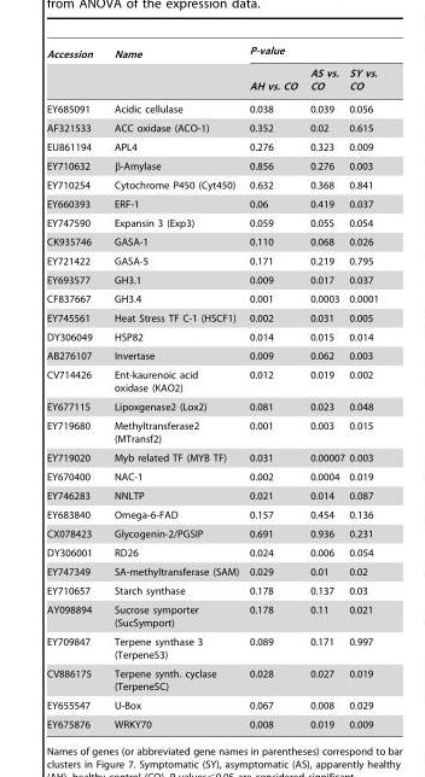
<table><thead><tr><td rowspan="2">Accession</td><td rowspan="2">Name</td><td colspan="3">P-value</td></tr><tr><td>AH vs. CO</td><td>AS vs. CO</td><td>SY vs. CO</td></tr></thead><tbody><tr><td>EY685091</td><td>Acidic cellulase</td><td>0.038</td><td>0.039</td><td>0.056</td></tr><tr><td>AF321533</td><td>ACC oxidase (ACO-1)</td><td>0.352</td><td>0.02</td><td>0.615</td></tr><tr><td>EU861194</td><td>APL4</td><td>0.276</td><td>0.323</td><td>0.009</td></tr><tr><td>EY710632</td><td>β-Amylase</td><td>0.856</td><td>0.276</td><td>0.003</td></tr><tr><td>EY710254</td><td>Cytochrome P450 (Cyt450)</td><td>0.632</td><td>0.368</td><td>0.841</td></tr><tr><td>EY660393</td><td>ERF-1</td><td>0.06</td><td>0.419</td><td>0.037</td></tr><tr><td>EY747590</td><td>Expansin 3 (Exp3)</td><td>0.059</td><td>0.055</td><td>0.054</td></tr><tr><td>CK935746</td><td>GASA-1</td><td>0.110</td><td>0.068</td><td>0.026</td></tr><tr><td>EY721422</td><td>GASA-5</td><td>0.171</td><td>0.219</td><td>0.795</td></tr><tr><td>EY693577</td><td>GH3.1</td><td>0.009</td><td>0.017</td><td>0.037</td></tr><tr><td>CF837667</td><td>GH3.4</td><td>0.001</td><td>0.0003</td><td>0.0001</td></tr><tr><td>EY745561</td><td>Heat Stress TF C-1 (HSCF1)</td><td>0.002</td><td>0.031</td><td>0.005</td></tr><tr><td>DY306049</td><td>HSP82</td><td>0.014</td><td>0.015</td><td>0.014</td></tr><tr><td>AB276107</td><td>Invertase</td><td>0.009</td><td>0.062</td><td>0.003</td></tr><tr><td>CV714426</td><td>Ent-kaurenoic acid oxidase (KAO2)</td><td>0.012</td><td>0.019</td><td>0.002</td></tr><tr><td>EY677115</td><td>Lipoxgenase2 (Lox2)</td><td>0.081</td><td>0.023</td><td>0.048</td></tr><tr><td>EY719680</td><td>Methyltransferase2 (MTransf2)</td><td>0.001</td><td>0.003</td><td>0.015</td></tr><tr><td>EY719020</td><td>Myb related TF (MYB TF)</td><td>0.031</td><td>0.00007</td><td>0.003</td></tr><tr><td>EY670400</td><td>NAC-1</td><td>0.002</td><td>0.0004</td><td>0.019</td></tr><tr><td>EY746283</td><td>NNLTP</td><td>0.021</td><td>0.014</td><td>0.087</td></tr><tr><td>EY683840</td><td>Omega-6-FAD</td><td>0.157</td><td>0.454</td><td>0.136</td></tr><tr><td>CX078423</td><td>Glycogenin-2/PGSIP</td><td>0.691</td><td>0.936</td><td>0.231</td></tr><tr><td>DY306001</td><td>RD26</td><td>0.024</td><td>0.006</td><td>0.054</td></tr><tr><td>EY747349</td><td>SA-methyltransferase (SAM)</td><td>0.029</td><td>0.01</td><td>0.02</td></tr><tr><td>EY710657</td><td>Starch synthase</td><td>0.178</td><td>0.137</td><td>0.03</td></tr><tr><td>AY098894</td><td>Sucrose symporter (SucSymport)</td><td>0.178</td><td>0.11</td><td>0.021</td></tr><tr><td>EY709847</td><td>Terpene synthase 3 (TerpeneS3)</td><td>0.089</td><td>0.171</td><td>0.997</td></tr><tr><td>CV886175</td><td>Terpene synth. cyclase (TerpeneSC)</td><td>0.028</td><td>0.027</td><td>0.019</td></tr><tr><td>EY655547</td><td>U-Box</td><td>0.067</td><td>0.008</td><td>0.029</td></tr><tr><td>EY675876</td><td>WRKY70</td><td>0.008</td><td>0.019</td><td>0.009</td></tr></tbody></table>